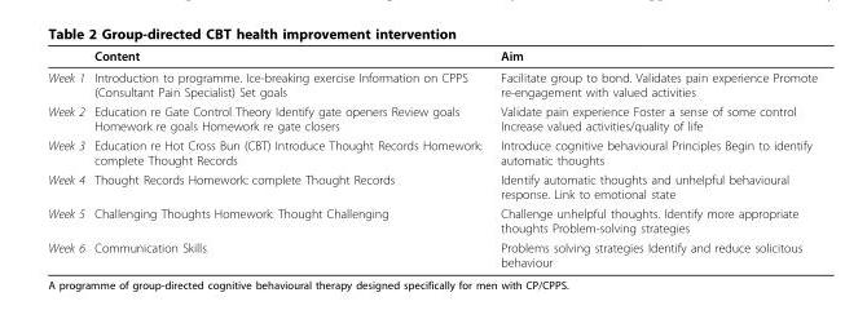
<table><thead><tr><td></td><td>Content</td><td>Aim</td></tr></thead><tbody><tr><td>Week 1</td><td>Introduction to programme. Ice-breaking exercise Information on CPPS (Consultant Pain Specialist) Set goals</td><td>Facilitate group to bond. Validates pain experience Promote re-engagement with valued activities</td></tr><tr><td>Week 2</td><td>Education re Gate Control Theory Identify gate openers Review goals Homework re goals Homework re gate closers</td><td>Validate pain experience Foster a sense of some control Increase valued activities/quality of life</td></tr><tr><td>Week 3</td><td>Education re Hot Cross Bun (CBT) Introduce Thought Records Homework: complete Thought Records</td><td>Introduce cognitive behavioural Principles Begin to identify automatic thoughts</td></tr><tr><td>Week 4</td><td>Thought Records Homework: complete Thought Records</td><td>Identify automatic thoughts and unhelpful behavioural response. Link to emotional state</td></tr><tr><td>Week 5</td><td>Challenging Thoughts Homework: Thought Challenging</td><td>Challenge unhelpful thoughts. Identify more appropriate thoughts Problem-solving strategies</td></tr><tr><td>Week 6</td><td>Communication Skills</td><td>Problems solving strategies Identify and reduce solicitous behaviour</td></tr></tbody></table>